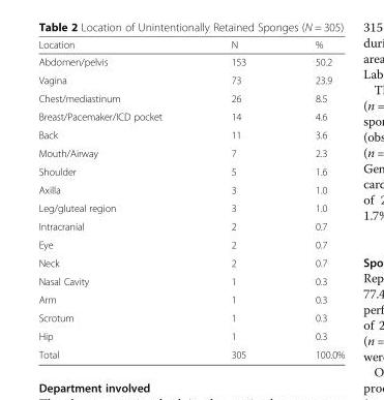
<table><thead><tr><td>Location</td><td>N</td><td>%</td></tr></thead><tbody><tr><td>Abdomen/pelvis</td><td>153</td><td>50.2</td></tr><tr><td>Vagina</td><td>73</td><td>23.9</td></tr><tr><td>Chest/mediastinum</td><td>26</td><td>8.5</td></tr><tr><td>Breast/Pacemaker/ICD pocket</td><td>14</td><td>4.6</td></tr><tr><td>Back</td><td>11</td><td>3.6</td></tr><tr><td>Mouth/Airway</td><td>7</td><td>2.3</td></tr><tr><td>Shoulder</td><td>5</td><td>1.6</td></tr><tr><td>Axilla</td><td>3</td><td>1.0</td></tr><tr><td>Leg/gluteal region</td><td>3</td><td>1.0</td></tr><tr><td>Intracranial</td><td>2</td><td>0.7</td></tr><tr><td>Eye</td><td>2</td><td>0.7</td></tr><tr><td>Neck</td><td>2</td><td>0.7</td></tr><tr><td>Nasal Cavity</td><td>1</td><td>0.3</td></tr><tr><td>Arm</td><td>1</td><td>0.3</td></tr><tr><td>Scrotum</td><td>1</td><td>0.3</td></tr><tr><td>Hip</td><td>1</td><td>0.3</td></tr><tr><td>Total</td><td>305</td><td>100.0%</td></tr></tbody></table>